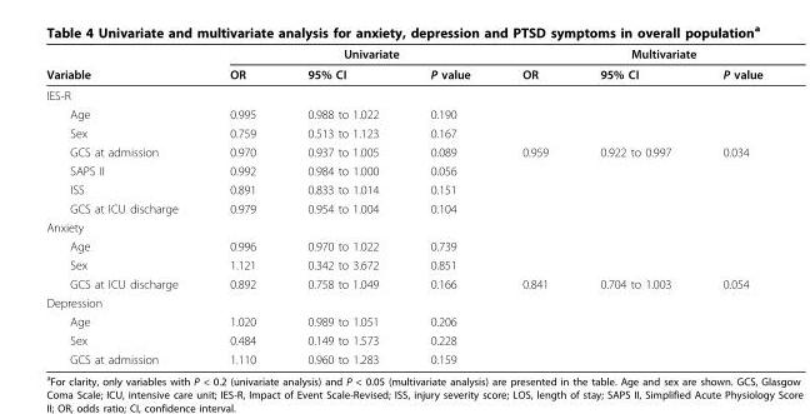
<table><thead><tr><td rowspan="2">Variable</td><td colspan="3">Univariate</td><td colspan="3">Multivariate</td></tr><tr><td>OR</td><td>95% CI</td><td>P value</td><td>OR</td><td>95% CI</td><td>P value</td></tr></thead><tbody><tr><td colspan="7">IES-R</td></tr><tr><td>Age</td><td>0.995</td><td>0.988 to 1.022</td><td>0.190</td><td></td><td></td><td></td></tr><tr><td>Sex</td><td>0.759</td><td>0.513 to 1.123</td><td>0.167</td><td></td><td></td><td></td></tr><tr><td>GCS at admission</td><td>0.970</td><td>0.937 to 1.005</td><td>0.089</td><td>0.959</td><td>0.922 to 0.997</td><td>0.034</td></tr><tr><td>SAPS II</td><td>0.992</td><td>0.984 to 1.000</td><td>0.056</td><td></td><td></td><td></td></tr><tr><td>ISS</td><td>0.891</td><td>0.833 to 1.014</td><td>0.151</td><td></td><td></td><td></td></tr><tr><td>GCS at ICU discharge</td><td>0.979</td><td>0.954 to 1.004</td><td>0.104</td><td></td><td></td><td></td></tr><tr><td colspan="7">Anxiety</td></tr><tr><td>Age</td><td>0.996</td><td>0.970 to 1.022</td><td>0.739</td><td></td><td></td><td></td></tr><tr><td>Sex</td><td>1.121</td><td>0.342 to 3.672</td><td>0.851</td><td></td><td></td><td></td></tr><tr><td>GCS at ICU discharge</td><td>0.892</td><td>0.758 to 1.049</td><td>0.166</td><td>0.841</td><td>0.704 to 1.003</td><td>0.054</td></tr><tr><td colspan="7">Depression</td></tr><tr><td>Age</td><td>1.020</td><td>0.989 to 1.051</td><td>0.206</td><td></td><td></td><td></td></tr><tr><td>Sex</td><td>0.484</td><td>0.149 to 1.573</td><td>0.228</td><td></td><td></td><td></td></tr><tr><td>GCS at admission</td><td>1.110</td><td>0.960 to 1.283</td><td>0.159</td><td></td><td></td><td></td></tr></tbody></table>